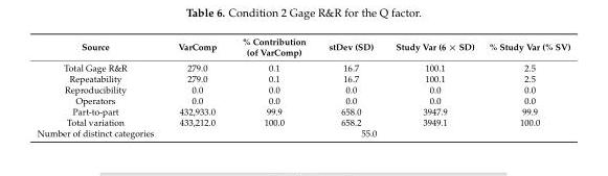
<table><thead><tr><td>Source</td><td>VarComp</td><td>% Contribution (of VarComp)</td><td>stDev (SD)</td><td>Study Var (6 × SD)</td><td>% Study Var (% SV)</td></tr></thead><tbody><tr><td>Total Gage R&amp;R</td><td>279.0</td><td>0.1</td><td>16.7</td><td>100.1</td><td>2.5</td></tr><tr><td>Repeatability</td><td>279.0</td><td>0.1</td><td>16.7</td><td>100.1</td><td>2.5</td></tr><tr><td>Reproducibility</td><td>0.0</td><td>0.0</td><td>0.0</td><td>0.0</td><td>0.0</td></tr><tr><td>Operators</td><td>0.0</td><td>0.0</td><td>0.0</td><td>0.0</td><td>0.0</td></tr><tr><td>Part-to-part</td><td>432,933.0</td><td>99.9</td><td>658.0</td><td>3947.9</td><td>99.9</td></tr><tr><td>Total variation</td><td>433,212.0</td><td>100.0</td><td>658.2</td><td>3949.1</td><td>100.0</td></tr><tr><td>Number of distinct categories</td><td colspan="5">55.0</td></tr></tbody></table>